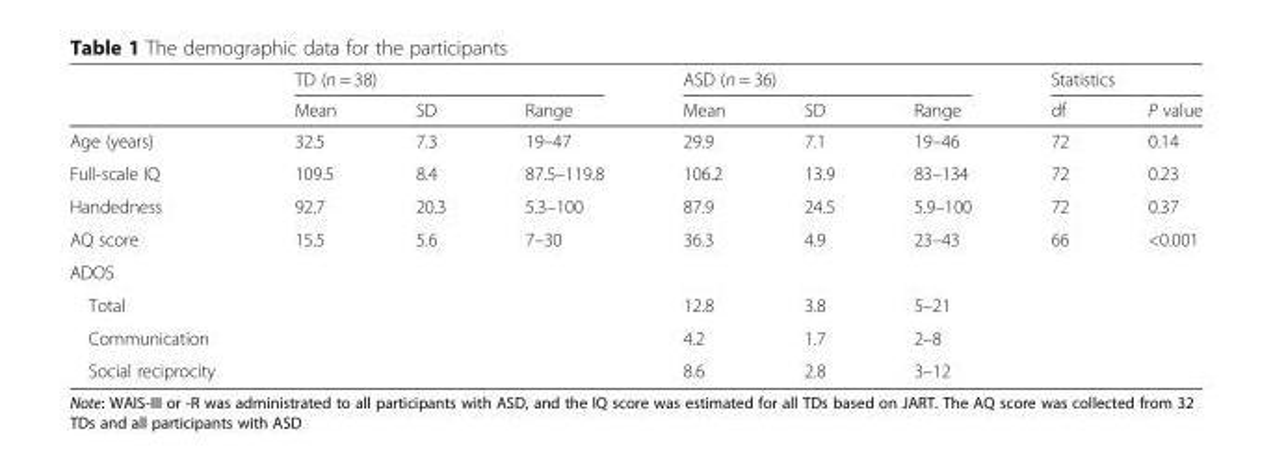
<table><thead><tr><td rowspan="2"></td><td colspan="3">TD (n = 38)</td><td colspan="3">ASD (n = 36)</td><td colspan="2">Statistics</td></tr><tr><td>Mean</td><td>SD</td><td>Range</td><td>Mean</td><td>SD</td><td>Range</td><td>df</td><td>P value</td></tr></thead><tbody><tr><td>Age (years)</td><td>32.5</td><td>7.3</td><td>19–47</td><td>29.9</td><td>7.1</td><td>19–46</td><td>72</td><td>0.14</td></tr><tr><td>Full-scale IQ</td><td>109.5</td><td>8.4</td><td>87.5–119.8</td><td>106.2</td><td>13.9</td><td>83–134</td><td>72</td><td>0.23</td></tr><tr><td>Handedness</td><td>92.7</td><td>20.3</td><td>5.3–100</td><td>87.9</td><td>24.5</td><td>5.9–100</td><td>72</td><td>0.37</td></tr><tr><td>AQ score</td><td>15.5</td><td>5.6</td><td>7–30</td><td>36.3</td><td>4.9</td><td>23–43</td><td>66</td><td>&lt;0.001</td></tr><tr><td colspan="9">ADOS</td></tr><tr><td>Total</td><td></td><td></td><td></td><td>12.8</td><td>3.8</td><td>5–21</td><td></td><td></td></tr><tr><td>Communication</td><td></td><td></td><td></td><td>4.2</td><td>1.7</td><td>2–8</td><td></td><td></td></tr><tr><td>Social reciprocity</td><td></td><td></td><td></td><td>8.6</td><td>2.8</td><td>3–12</td><td></td><td></td></tr></tbody></table>